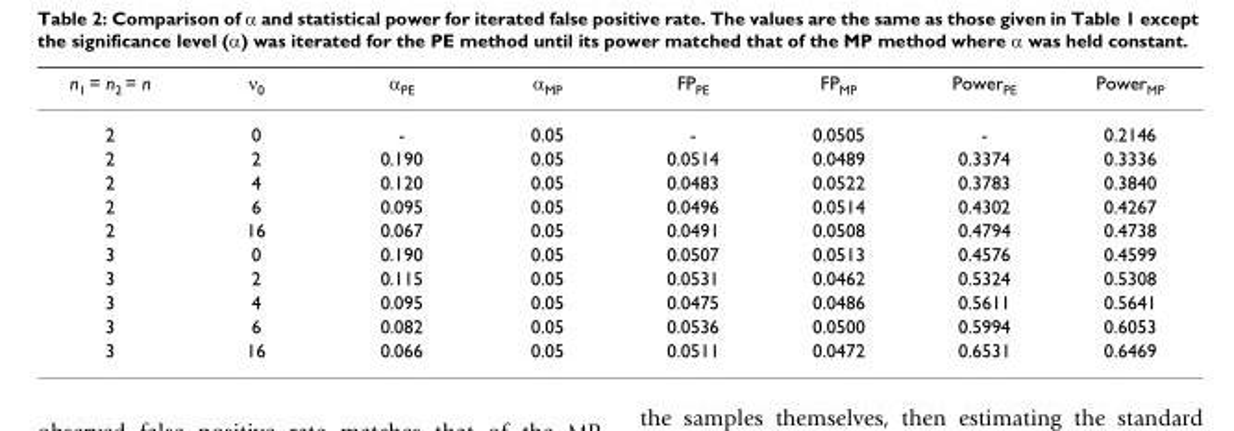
<table><thead><tr><td>n<sub>1</sub> = n<sub>2</sub> = n</td><td>ν<sub>0</sub></td><td>α<sub>PE</sub></td><td>α<sub>MP</sub></td><td>FP<sub>PE</sub></td><td>FP<sub>MP</sub></td><td>Power<sub>PE</sub></td><td>Power<sub>MP</sub></td></tr></thead><tbody><tr><td>2</td><td>0</td><td>-</td><td>0.05</td><td>-</td><td>0.0505</td><td>-</td><td>0.2146</td></tr><tr><td>2</td><td>2</td><td>0.190</td><td>0.05</td><td>0.0514</td><td>0.0489</td><td>0.3374</td><td>0.3336</td></tr><tr><td>2</td><td>4</td><td>0.120</td><td>0.05</td><td>0.0483</td><td>0.0522</td><td>0.3783</td><td>0.3840</td></tr><tr><td>2</td><td>6</td><td>0.095</td><td>0.05</td><td>0.0496</td><td>0.0514</td><td>0.4302</td><td>0.4267</td></tr><tr><td>2</td><td>16</td><td>0.067</td><td>0.05</td><td>0.0491</td><td>0.0508</td><td>0.4794</td><td>0.4738</td></tr><tr><td>3</td><td>0</td><td>0.190</td><td>0.05</td><td>0.0507</td><td>0.0513</td><td>0.4576</td><td>0.4599</td></tr><tr><td>3</td><td>2</td><td>0.115</td><td>0.05</td><td>0.0531</td><td>0.0462</td><td>0.5324</td><td>0.5308</td></tr><tr><td>3</td><td>4</td><td>0.095</td><td>0.05</td><td>0.0475</td><td>0.0486</td><td>0.5611</td><td>0.5641</td></tr><tr><td>3</td><td>6</td><td>0.082</td><td>0.05</td><td>0.0536</td><td>0.0500</td><td>0.5994</td><td>0.6053</td></tr><tr><td>3</td><td>16</td><td>0.066</td><td>0.05</td><td>0.0511</td><td>0.0472</td><td>0.6531</td><td>0.6469</td></tr></tbody></table>